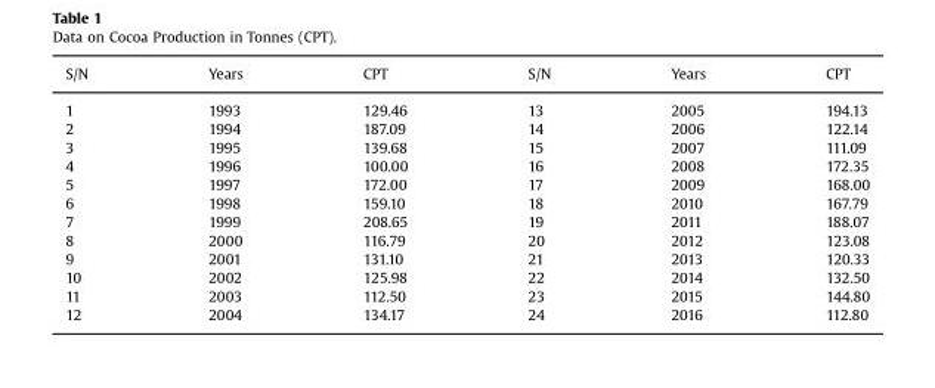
<table><thead><tr><td>S/N</td><td>Years</td><td>CPT</td><td>S/N</td><td>Years</td><td>CPT</td></tr></thead><tbody><tr><td>1</td><td>1993</td><td>129.46</td><td>13</td><td>2005</td><td>194.13</td></tr><tr><td>2</td><td>1994</td><td>187.09</td><td>14</td><td>2006</td><td>122.14</td></tr><tr><td>3</td><td>1995</td><td>139.68</td><td>15</td><td>2007</td><td>111.09</td></tr><tr><td>4</td><td>1996</td><td>100.00</td><td>16</td><td>2008</td><td>172.35</td></tr><tr><td>5</td><td>1997</td><td>172.00</td><td>17</td><td>2009</td><td>168.00</td></tr><tr><td>6</td><td>1998</td><td>159.10</td><td>18</td><td>2010</td><td>167.79</td></tr><tr><td>7</td><td>1999</td><td>208.65</td><td>19</td><td>2011</td><td>188.07</td></tr><tr><td>8</td><td>2000</td><td>116.79</td><td>20</td><td>2012</td><td>123.08</td></tr><tr><td>9</td><td>2001</td><td>131.10</td><td>21</td><td>2013</td><td>120.33</td></tr><tr><td>10</td><td>2002</td><td>125.98</td><td>22</td><td>2014</td><td>132.50</td></tr><tr><td>11</td><td>2003</td><td>112.50</td><td>23</td><td>2015</td><td>144.80</td></tr><tr><td>12</td><td>2004</td><td>134.17</td><td>24</td><td>2016</td><td>112.80</td></tr></tbody></table>